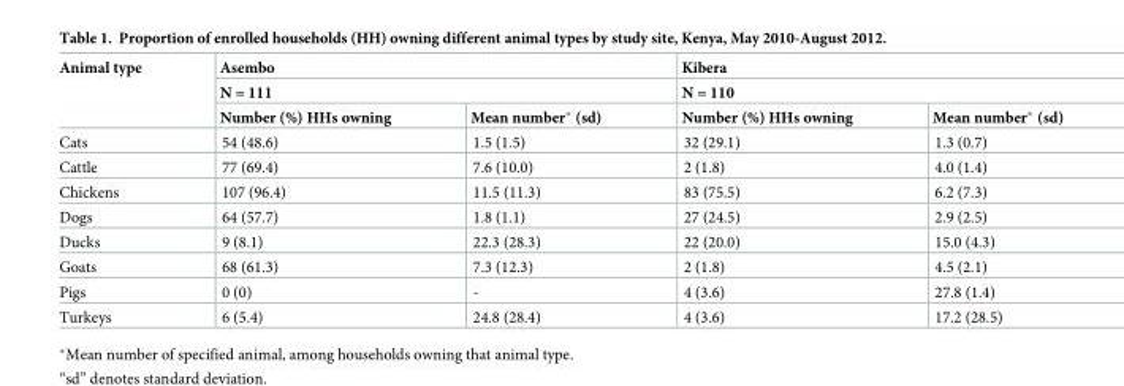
<table><thead><tr><td rowspan="3">Animal type</td><td rowspan="2" colspan="2">Asembo N = 111</td><td rowspan="2" colspan="2">Kibera N = 110</td></tr><tr></tr><tr><td>Number (%) HHs owning</td><td>Mean number* (sd)</td><td>Number (%) HHs owning</td><td>Mean number* (sd)</td></tr></thead><tbody><tr><td>Cats</td><td>54 (48.6)</td><td>1.5 (1.5)</td><td>32 (29.1)</td><td>1.3 (0.7)</td></tr><tr><td>Cattle</td><td>77 (69.4)</td><td>7.6 (10.0)</td><td>2 (1.8)</td><td>4.0 (1.4)</td></tr><tr><td>Chickens</td><td>107 (96.4)</td><td>11.5 (11.3)</td><td>83 (75.5)</td><td>6.2 (7.3)</td></tr><tr><td>Dogs</td><td>64 (57.7)</td><td>1.8 (1.1)</td><td>27 (24.5)</td><td>2.9 (2.5)</td></tr><tr><td>Ducks</td><td>9 (8.1)</td><td>22.3 (28.3)</td><td>22 (20.0)</td><td>15.0 (4.3)</td></tr><tr><td>Goats</td><td>68 (61.3)</td><td>7.3 (12.3)</td><td>2 (1.8)</td><td>4.5 (2.1)</td></tr><tr><td>Pigs</td><td>0 (0)</td><td>-</td><td>4 (3.6)</td><td>27.8 (1.4)</td></tr><tr><td>Turkeys</td><td>6 (5.4)</td><td>24.8 (28.4)</td><td>4 (3.6)</td><td>17.2 (28.5)</td></tr></tbody></table>